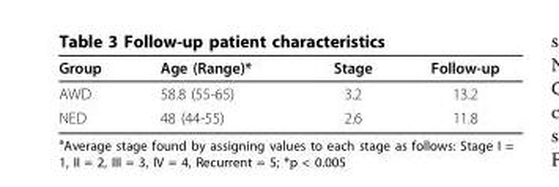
<table><thead><tr><td>Group</td><td>Age (Range)*</td><td>Stage</td><td>Follow-up</td></tr></thead><tbody><tr><td>AWD</td><td>58.8 (55-65)</td><td>3.2</td><td>13.2</td></tr><tr><td>NED</td><td>48 (44-55)</td><td>2.6</td><td>11.8</td></tr></tbody></table>